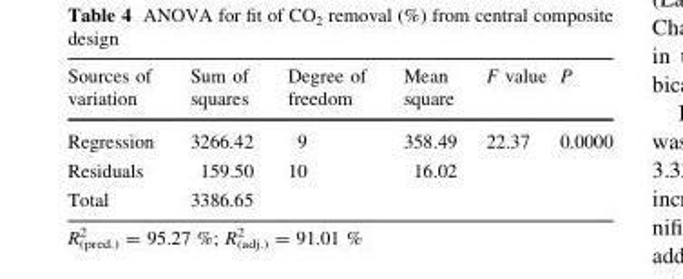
<table><thead><tr><td>Sources of variation</td><td>Sum of squares</td><td>Degree of freedom</td><td>Mean square</td><td>F value</td><td>P</td></tr></thead><tbody><tr><td>Regression</td><td>3266.42</td><td>9</td><td>358.49</td><td>22.37</td><td>0.0000</td></tr><tr><td>Residuals</td><td>159.50</td><td>10</td><td>16.02</td><td></td><td></td></tr><tr><td>Total</td><td>3386.65</td><td></td><td></td><td></td><td></td></tr></tbody></table>